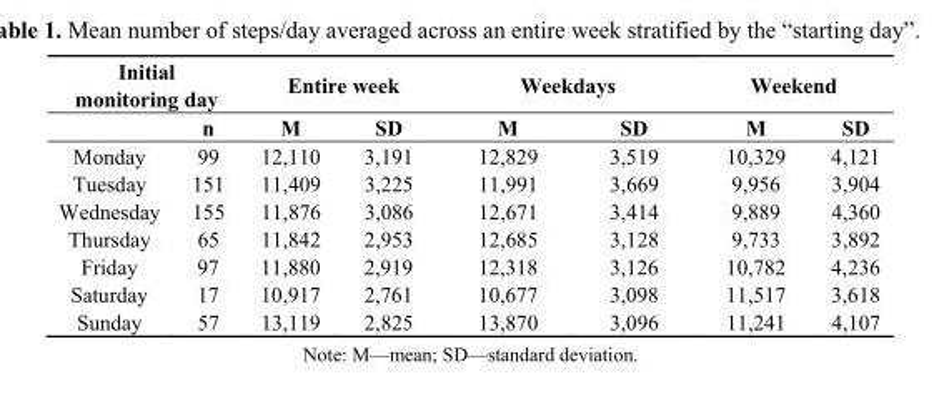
<table><thead><tr><td colspan="2">Initial monitoring day</td><td colspan="2">Entire week</td><td colspan="2">Weekdays</td><td colspan="2">Weekend</td></tr><tr><td></td><td>n</td><td>M</td><td>SD</td><td>M</td><td>SD</td><td>M</td><td>SD</td></tr></thead><tbody><tr><td>Monday</td><td>99</td><td>12,110</td><td>3,191</td><td>12,829</td><td>3,519</td><td>10,329</td><td>4,121</td></tr><tr><td>Tuesday</td><td>151</td><td>11,409</td><td>3,225</td><td>11,991</td><td>3,669</td><td>9,956</td><td>3,904</td></tr><tr><td>Wednesday</td><td>155</td><td>11,876</td><td>3,086</td><td>12,671</td><td>3,414</td><td>9,889</td><td>4,360</td></tr><tr><td>Thursday</td><td>65</td><td>11,842</td><td>2,953</td><td>12,685</td><td>3,128</td><td>9,733</td><td>3,892</td></tr><tr><td>Friday</td><td>97</td><td>11,880</td><td>2,919</td><td>12,318</td><td>3,126</td><td>10,782</td><td>4,236</td></tr><tr><td>Saturday</td><td>17</td><td>10,917</td><td>2,761</td><td>10,677</td><td>3,098</td><td>11,517</td><td>3,618</td></tr><tr><td>Sunday</td><td>57</td><td>13,119</td><td>2,825</td><td>13,870</td><td>3,096</td><td>11,241</td><td>4,107</td></tr></tbody></table>